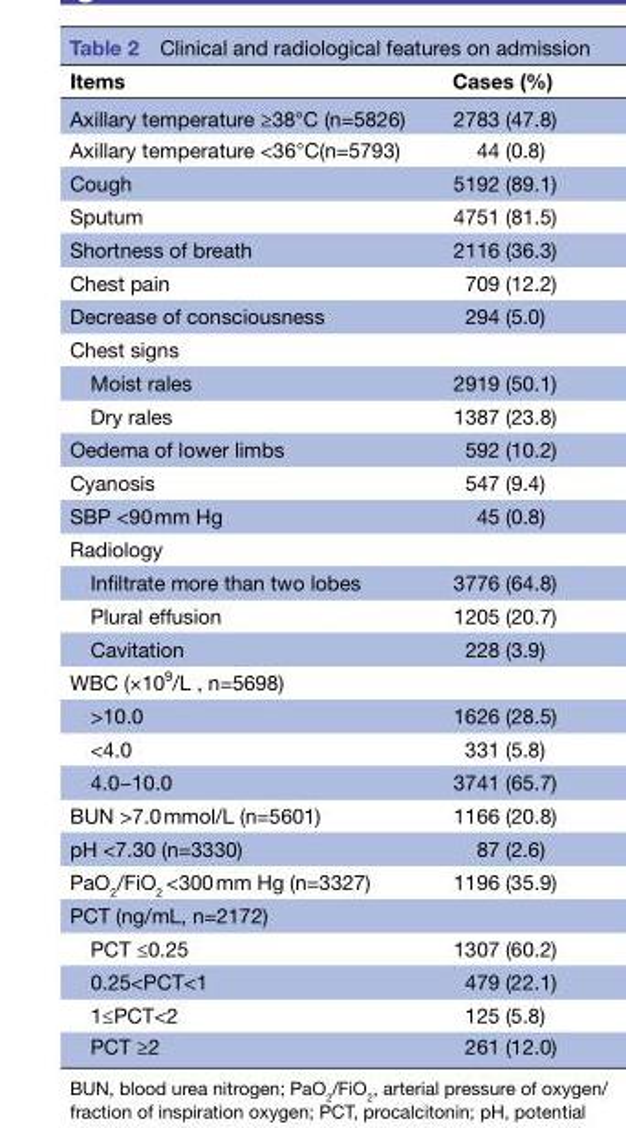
<table><thead><tr><td>Items</td><td>Cases (%)</td></tr></thead><tbody><tr><td>Axillary temperature ≥38°C (n=5826)</td><td>2783 (47.8)</td></tr><tr><td>Axillary temperature &lt;36°C(n=5793)</td><td>44 (0.8)</td></tr><tr><td>Cough</td><td>5192 (89.1)</td></tr><tr><td>Sputum</td><td>4751 (81.5)</td></tr><tr><td>Shortness of breath</td><td>2116 (36.3)</td></tr><tr><td>Chest pain</td><td>709 (12.2)</td></tr><tr><td>Decrease of consciousness</td><td>294 (5.0)</td></tr><tr><td colspan="2">Chest signs</td></tr><tr><td>Moist rales</td><td>2919 (50.1)</td></tr><tr><td>Dry rales</td><td>1387 (23.8)</td></tr><tr><td>Oedema of lower limbs</td><td>592 (10.2)</td></tr><tr><td>Cyanosis</td><td>547 (9.4)</td></tr><tr><td>SBP &lt;90 mm Hg</td><td>45 (0.8)</td></tr><tr><td colspan="2">Radiology</td></tr><tr><td>Infiltrate more than two lobes</td><td>3776 (64.8)</td></tr><tr><td>Plural effusion</td><td>1205 (20.7)</td></tr><tr><td>Cavitation</td><td>228 (3.9)</td></tr><tr><td colspan="2">WBC (×10<sup>9</sup>/L , n=5698)</td></tr><tr><td>&gt;10.0</td><td>1626 (28.5)</td></tr><tr><td>&lt;4.0</td><td>331 (5.8)</td></tr><tr><td>4.0−10.0</td><td>3741 (65.7)</td></tr><tr><td>BUN &gt;7.0 mmol/L (n=5601)</td><td>1166 (20.8)</td></tr><tr><td>pH &lt;7.30 (n=3330)</td><td>87 (2.6)</td></tr><tr><td>PaO<sub>2</sub>/FiO<sub>2</sub> &lt;300 mm Hg (n=3327)</td><td>1196 (35.9)</td></tr><tr><td colspan="2">PCT (ng/mL, n=2172)</td></tr><tr><td>PCT ≤0.25</td><td>1307 (60.2)</td></tr><tr><td>0.25&lt;PCT&lt;1</td><td>479 (22.1)</td></tr><tr><td>1≤PCT&lt;2</td><td>125 (5.8)</td></tr><tr><td>PCT ≥2</td><td>261 (12.0)</td></tr></tbody></table>